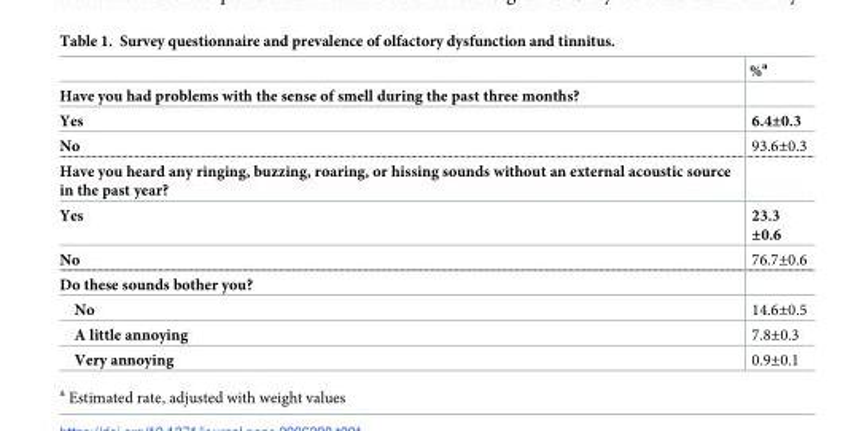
<table><thead><tr><td></td><td>%<sup>a</sup></td></tr></thead><tbody><tr><td colspan="2">Have you had problems with the sense of smell during the past three months?</td></tr><tr><td>Yes</td><td>6.4±0.3</td></tr><tr><td>No</td><td>93.6±0.3</td></tr><tr><td colspan="2">Have you heard any ringing, buzzing, roaring, or hissing sounds without an external acoustic source in the past year?</td></tr><tr><td>Yes</td><td>23.3 ±0.6</td></tr><tr><td>No</td><td>76.7±0.6</td></tr><tr><td colspan="2">Do these sounds bother you?</td></tr><tr><td>No</td><td>14.6±0.5</td></tr><tr><td>A little annoying</td><td>7.8±0.3</td></tr><tr><td>Very annoying</td><td>0.9±0.1</td></tr></tbody></table>